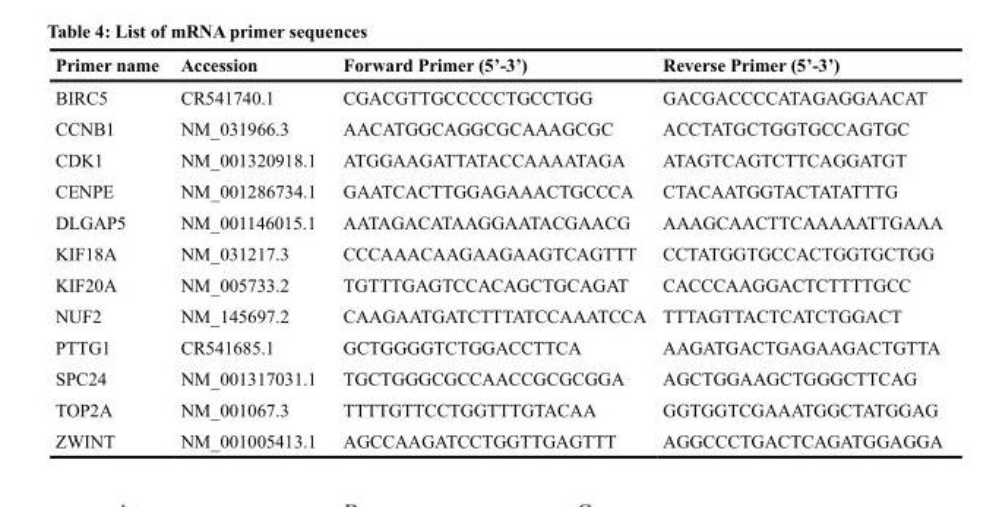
<table><thead><tr><td>Primer name</td><td>Accession</td><td>Forward Primer (5’-3’)</td><td>Reverse Primer (5’-3’)</td></tr></thead><tbody><tr><td>BIRC5</td><td>CR541740.1</td><td>CGACGTTGCCCCCTGCCTGG</td><td>GACGACCCCATAGAGGAACAT</td></tr><tr><td>CCNB1</td><td>NM_031966.3</td><td>AACATGGCAGGCGCAAAGCGC</td><td>ACCTATGCTGGTGCCAGTGC</td></tr><tr><td>CDK1</td><td>NM_001320918.1</td><td>ATGGAAGATTATACCAAAATAGA</td><td>ATAGTCAGTCTTCAGGATGT</td></tr><tr><td>CENPE</td><td>NM_001286734.1</td><td>GAATCACTTGGAGAAACTGCCCA</td><td>CTACAATGGTACTATATTTG</td></tr><tr><td>DLGAP5</td><td>NM_001146015.1</td><td>AATAGACATAAGGAATACGAACG</td><td>AAAGCAACTTCAAAAATTGAAA</td></tr><tr><td>KIF18A</td><td>NM_031217.3</td><td>CCCAAACAAGAAGAAGTCAGTTT</td><td>CCTATGGTGCCACTGGTGCTGG</td></tr><tr><td>KIF20A</td><td>NM_005733.2</td><td>TGTTTGAGTCCACAGCTGCAGAT</td><td>CACCCAAGGACTCTTTTGCC</td></tr><tr><td>NUF2</td><td>NM_145697.2</td><td>CAAGAATGATCTTTATCCAAATCCA</td><td>TTTAGTTACTCATCTGGACT</td></tr><tr><td>PTTG1</td><td>CR541685.1</td><td>GCTGGGGTCTGGACCTTCA</td><td>AAGATGACTGAGAAGACTGTTA</td></tr><tr><td>SPC24</td><td>NM_001317031.1</td><td>TGCTGGGCGCCAACCGCGCGGA</td><td>AGCTGGAAGCTGGGCTTCAG</td></tr><tr><td>TOP2A</td><td>NM_001067.3</td><td>TTTTGTTCCTGGTTTGTACAA</td><td>GGTGGTCGAAATGGCTATGGAG</td></tr><tr><td>ZWINT</td><td>NM_001005413.1</td><td>AGCCAAGATCCTGGTTGAGTTT</td><td>AGGCCCTGACTCAGATGGAGGA</td></tr></tbody></table>